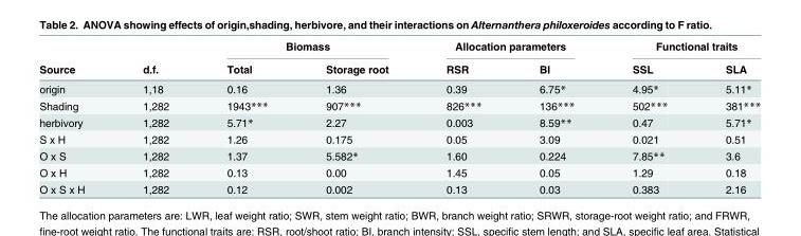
<table><thead><tr><td rowspan="2">Source</td><td rowspan="2">d.f.</td><td colspan="2">Biomass</td><td colspan="2">Allocation parameters</td><td colspan="2">Functional traits</td></tr><tr><td>Total</td><td>Storage root</td><td>RSR</td><td>BI</td><td>SSL</td><td>SLA</td></tr></thead><tbody><tr><td>origin</td><td>1,18</td><td>0.16</td><td>1.36</td><td>0.39</td><td>6.75*</td><td>4.95*</td><td>5.11*</td></tr><tr><td>Shading</td><td>1,282</td><td>1943***</td><td>907***</td><td>826***</td><td>136***</td><td>502***</td><td>381***</td></tr><tr><td>herbivory</td><td>1,282</td><td>5.71*</td><td>2.27</td><td>0.003</td><td>8.59**</td><td>0.47</td><td>5.71*</td></tr><tr><td>S x H</td><td>1,282</td><td>1.26</td><td>0.175</td><td>0.05</td><td>3.09</td><td>0.021</td><td>0.51</td></tr><tr><td>O x S</td><td>1,282</td><td>1.37</td><td>5.582*</td><td>1.60</td><td>0.224</td><td>7.85**</td><td>3.6</td></tr><tr><td>O x H</td><td>1,282</td><td>0.13</td><td>0.00</td><td>1.45</td><td>0.05</td><td>1.29</td><td>0.18</td></tr><tr><td>O x S x H</td><td>1,282</td><td>0.12</td><td>0.002</td><td>0.13</td><td>0.03</td><td>0.383</td><td>2.16</td></tr></tbody></table>